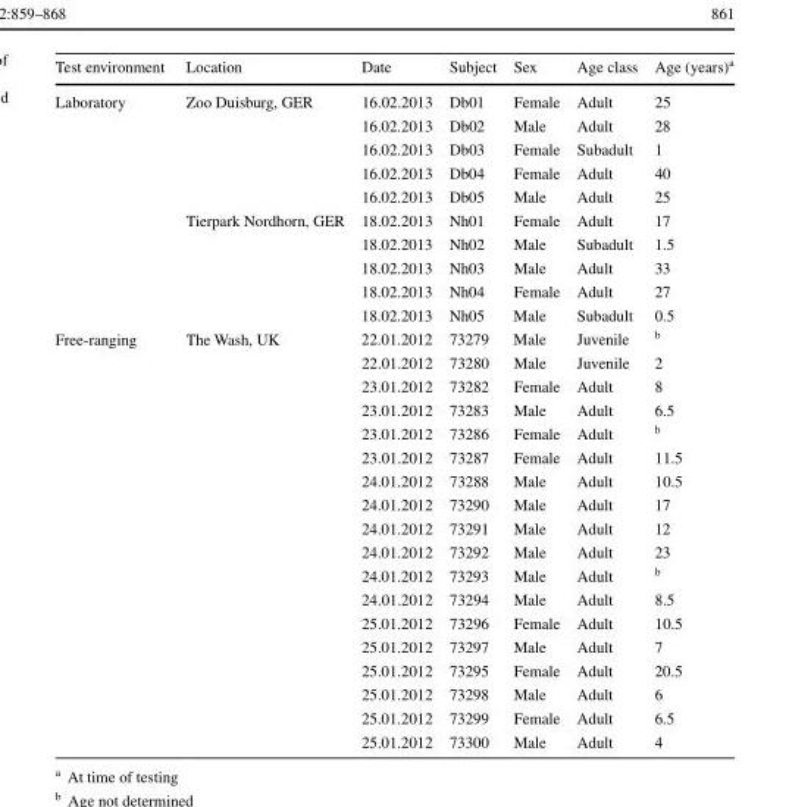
<table><thead><tr><td>Test environment</td><td>Location</td><td>Date</td><td>Subject</td><td>Sex</td><td>Age class</td><td>Age (years)<sup>a</sup></td></tr></thead><tbody><tr><td rowspan="10">Laboratory</td><td rowspan="5">Zoo Duisburg, GER</td><td>16.02.2013</td><td>Db01</td><td>Female</td><td>Adult</td><td>25</td></tr><tr><td>16.02.2013</td><td>Db02</td><td>Male</td><td>Adult</td><td>28</td></tr><tr><td>16.02.2013</td><td>Db03</td><td>Female</td><td>Subadult</td><td>1</td></tr><tr><td>16.02.2013</td><td>Db04</td><td>Female</td><td>Adult</td><td>40</td></tr><tr><td>16.02.2013</td><td>Db05</td><td>Male</td><td>Adult</td><td>25</td></tr><tr><td rowspan="5">Tierpark Nordhorn, GER</td><td>18.02.2013</td><td>Nh01</td><td>Female</td><td>Adult</td><td>17</td></tr><tr><td>18.02.2013</td><td>Nh02</td><td>Male</td><td>Subadult</td><td>1.5</td></tr><tr><td>18.02.2013</td><td>Nh03</td><td>Male</td><td>Adult</td><td>33</td></tr><tr><td>18.02.2013</td><td>Nh04</td><td>Female</td><td>Adult</td><td>27</td></tr><tr><td>18.02.2013</td><td>Nh05</td><td>Male</td><td>Subadult</td><td>0.5</td></tr><tr><td rowspan="18">Free-ranging</td><td rowspan="18">The Wash, UK</td><td>22.01.2012</td><td>73279</td><td>Male</td><td>Juvenile</td><td><sup>b</sup></td></tr><tr><td>22.01.2012</td><td>73280</td><td>Male</td><td>Juvenile</td><td>2</td></tr><tr><td>23.01.2012</td><td>73282</td><td>Female</td><td>Adult</td><td>8</td></tr><tr><td>23.01.2012</td><td>73283</td><td>Male</td><td>Adult</td><td>6.5</td></tr><tr><td>23.01.2012</td><td>73286</td><td>Female</td><td>Adult</td><td><sup>b</sup></td></tr><tr><td>23.01.2012</td><td>73287</td><td>Female</td><td>Adult</td><td>11.5</td></tr><tr><td>24.01.2012</td><td>73288</td><td>Male</td><td>Adult</td><td>10.5</td></tr><tr><td>24.01.2012</td><td>73290</td><td>Male</td><td>Adult</td><td>17</td></tr><tr><td>24.01.2012</td><td>73291</td><td>Male</td><td>Adult</td><td>12</td></tr><tr><td>24.01.2012</td><td>73292</td><td>Male</td><td>Adult</td><td>23</td></tr><tr><td>24.01.2012</td><td>73293</td><td>Male</td><td>Adult</td><td><sup>b</sup></td></tr><tr><td>24.01.2012</td><td>73294</td><td>Male</td><td>Adult</td><td>8.5</td></tr><tr><td>25.01.2012</td><td>73296</td><td>Female</td><td>Adult</td><td>10.5</td></tr><tr><td>25.01.2012</td><td>73297</td><td>Male</td><td>Adult</td><td>7</td></tr><tr><td>25.01.2012</td><td>73295</td><td>Female</td><td>Adult</td><td>20.5</td></tr><tr><td>25.01.2012</td><td>73298</td><td>Male</td><td>Adult</td><td>6</td></tr><tr><td>25.01.2012</td><td>73299</td><td>Female</td><td>Adult</td><td>6.5</td></tr><tr><td>25.01.2012</td><td>73300</td><td>Male</td><td>Adult</td><td>4</td></tr></tbody></table>